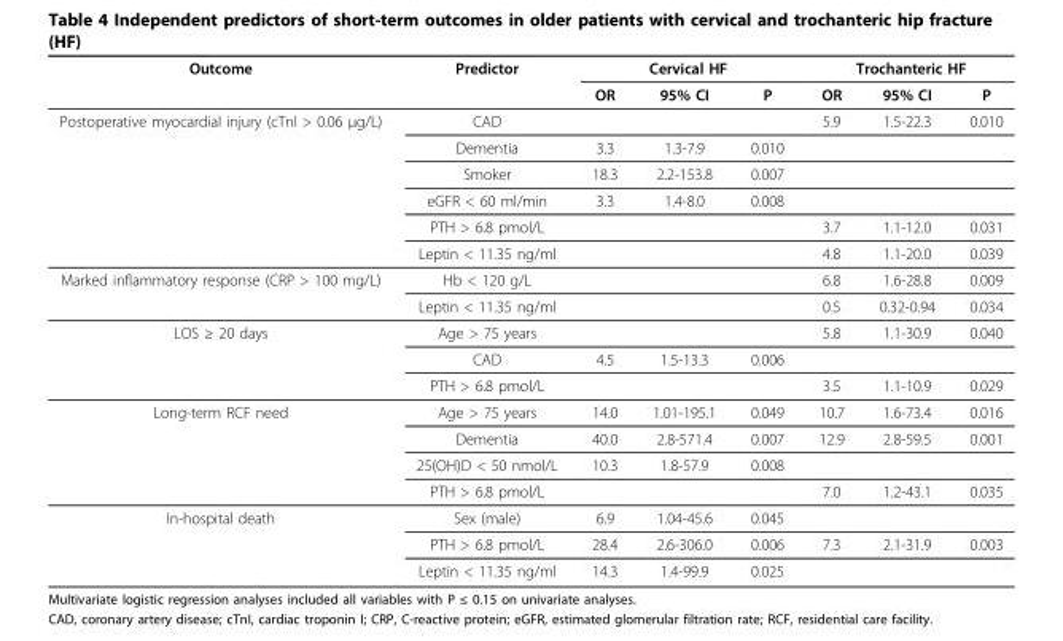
<table><thead><tr><td rowspan="2">Outcome</td><td rowspan="2">Predictor</td><td colspan="3">Cervical HF</td><td colspan="3">Trochanteric HF</td></tr><tr><td>OR</td><td>95% CI</td><td>P</td><td>OR</td><td>95% CI</td><td>P</td></tr></thead><tbody><tr><td rowspan="6">Postoperative myocardial injury (cTnI &gt; 0.06 μg/L)</td><td>CAD</td><td></td><td></td><td></td><td>5.9</td><td>1.5-22.3</td><td>0.010</td></tr><tr><td>Dementia</td><td>3.3</td><td>1.3-7.9</td><td>0.010</td><td></td><td></td><td></td></tr><tr><td>Smoker</td><td>18.3</td><td>2.2-153.8</td><td>0.007</td><td></td><td></td><td></td></tr><tr><td>eGFR &lt; 60 ml/min</td><td>3.3</td><td>1.4-8.0</td><td>0.008</td><td></td><td></td><td></td></tr><tr><td>PTH &gt; 6.8 pmol/L</td><td></td><td></td><td></td><td>3.7</td><td>1.1-12.0</td><td>0.031</td></tr><tr><td>Leptin &lt; 11.35 ng/ml</td><td></td><td></td><td></td><td>4.8</td><td>1.1-20.0</td><td>0.039</td></tr><tr><td rowspan="2">Marked inflammatory response (CRP &gt; 100 mg/L)</td><td>Hb &lt; 120 g/L</td><td></td><td></td><td></td><td>6.8</td><td>1.6-28.8</td><td>0.009</td></tr><tr><td>Leptin &lt; 11.35 ng/ml</td><td></td><td></td><td></td><td>0.5</td><td>0.32-0.94</td><td>0.034</td></tr><tr><td rowspan="3">LOS ≥ 20 days</td><td>Age &gt; 75 years</td><td></td><td></td><td></td><td>5.8</td><td>1.1-30.9</td><td>0.040</td></tr><tr><td>CAD</td><td>4.5</td><td>1.5-13.3</td><td>0.006</td><td></td><td></td><td></td></tr><tr><td>PTH &gt; 6.8 pmol/L</td><td></td><td></td><td></td><td>3.5</td><td>1.1-10.9</td><td>0.029</td></tr><tr><td rowspan="4">Long-term RCF need</td><td>Age &gt; 75 years</td><td>14.0</td><td>1.01-195.1</td><td>0.049</td><td>10.7</td><td>1.6-73.4</td><td>0.016</td></tr><tr><td>Dementia</td><td>40.0</td><td>2.8-571.4</td><td>0.007</td><td>12.9</td><td>2.8-59.5</td><td>0.001</td></tr><tr><td>25(OH)D &lt; 50 nmol/L</td><td>10.3</td><td>1.8-57.9</td><td>0.008</td><td></td><td></td><td></td></tr><tr><td>PTH &gt; 6.8 pmol/L</td><td></td><td></td><td></td><td>7.0</td><td>1.2-43.1</td><td>0.035</td></tr><tr><td rowspan="3">In-hospital death</td><td>Sex (male)</td><td>6.9</td><td>1.04-45.6</td><td>0.045</td><td></td><td></td><td></td></tr><tr><td>PTH &gt; 6.8 pmol/L</td><td>28.4</td><td>2.6-306.0</td><td>0.006</td><td>7.3</td><td>2.1-31.9</td><td>0.003</td></tr><tr><td>Leptin &lt; 11.35 ng/ml</td><td>14.3</td><td>1.4-99.9</td><td>0.025</td><td></td><td></td><td></td></tr></tbody></table>